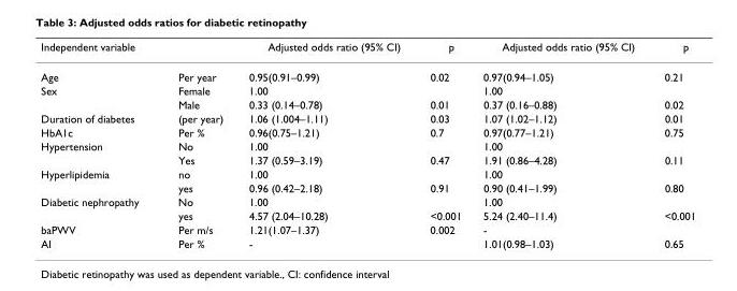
<table><thead><tr><td>Independent variable</td><td></td><td>Adjusted odds ratio (95% CI)</td><td>p</td><td>Adjusted odds ratio (95% CI)</td><td>p</td></tr></thead><tbody><tr><td>Age</td><td>Per year</td><td>0.95(0.91–0.99)</td><td>0.02</td><td>0.97(0.94–1.05)</td><td>0.21</td></tr><tr><td rowspan="2">Sex</td><td>Female</td><td>1.00</td><td></td><td>1.00</td><td></td></tr><tr><td>Male</td><td>0.33 (0.14–0.78)</td><td>0.01</td><td>0.37 (0.16–0.88)</td><td>0.02</td></tr><tr><td>Duration of diabetes</td><td>(per year)</td><td>1.06 (1.004–1.11)</td><td>0.03</td><td>1.07 (1.02–1.12)</td><td>0.01</td></tr><tr><td>HbA1c</td><td>Per %</td><td>0.96(0.75–1.21)</td><td>0.7</td><td>0.97(0.77–1.21)</td><td>0.75</td></tr><tr><td rowspan="2">Hypertension</td><td>No</td><td>1.00</td><td></td><td>1.00</td><td></td></tr><tr><td>Yes</td><td>1.37 (0.59–3.19)</td><td>0.47</td><td>1.91 (0.86–4.28)</td><td>0.11</td></tr><tr><td rowspan="2">Hyperlipidemia</td><td>no</td><td>1.00</td><td></td><td>1.00</td><td></td></tr><tr><td>yes</td><td>0.96 (0.42–2.18)</td><td>0.91</td><td>0.90 (0.41–1.99)</td><td>0.80</td></tr><tr><td rowspan="2">Diabetic nephropathy</td><td>No</td><td>1.00</td><td></td><td>1.00</td><td></td></tr><tr><td>yes</td><td>4.57 (2.04–10.28)</td><td>&lt;0.001</td><td>5.24 (2.40–11.4)</td><td>&lt;0.001</td></tr><tr><td>baPWV</td><td>Per m/s</td><td>1.21(1.07–1.37)</td><td>0.002</td><td>-</td><td></td></tr><tr><td>AI</td><td>Per %</td><td>-</td><td></td><td>1.01(0.98–1.03)</td><td>0.65</td></tr></tbody></table>